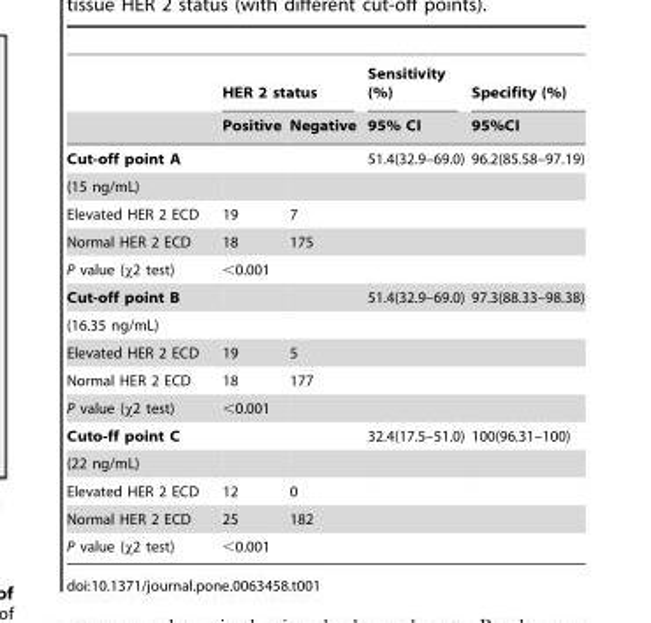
<table><thead><tr><td rowspan="2"></td><td colspan="2">HER 2 status</td><td rowspan="2">Sensitivity (%) 95% CI</td><td rowspan="2">Specifity (%) 95%CI</td></tr><tr><td>Positive</td><td>Negative</td></tr></thead><tbody><tr><td>Cut-off point A</td><td></td><td></td><td>51.4(32.9–69.0)</td><td>96.2(85.58–97.19)</td></tr><tr><td colspan="5">(15 ng/mL)</td></tr><tr><td>Elevated HER 2 ECD</td><td>19</td><td>7</td><td></td><td></td></tr><tr><td>Normal HER 2 ECD</td><td>18</td><td>175</td><td></td><td></td></tr><tr><td>P value (χ2 test)</td><td>&lt;0.001</td><td></td><td></td><td></td></tr><tr><td>Cut-off point B</td><td></td><td></td><td>51.4(32.9–69.0)</td><td>97.3(88.33–98.38)</td></tr><tr><td colspan="5">(16.35 ng/mL)</td></tr><tr><td>Elevated HER 2 ECD</td><td>19</td><td>5</td><td></td><td></td></tr><tr><td>Normal HER 2 ECD</td><td>18</td><td>177</td><td></td><td></td></tr><tr><td>P value (χ2 test)</td><td>&lt;0.001</td><td></td><td></td><td></td></tr><tr><td>Cuto-ff point C</td><td></td><td></td><td>32.4(17.5–51.0)</td><td>100(96.31–100)</td></tr><tr><td colspan="5">(22 ng/mL)</td></tr><tr><td>Elevated HER 2 ECD</td><td>12</td><td>0</td><td></td><td></td></tr><tr><td>Normal HER 2 ECD</td><td>25</td><td>182</td><td></td><td></td></tr><tr><td>P value (χ2 test)</td><td>&lt;0.001</td><td></td><td></td><td></td></tr></tbody></table>